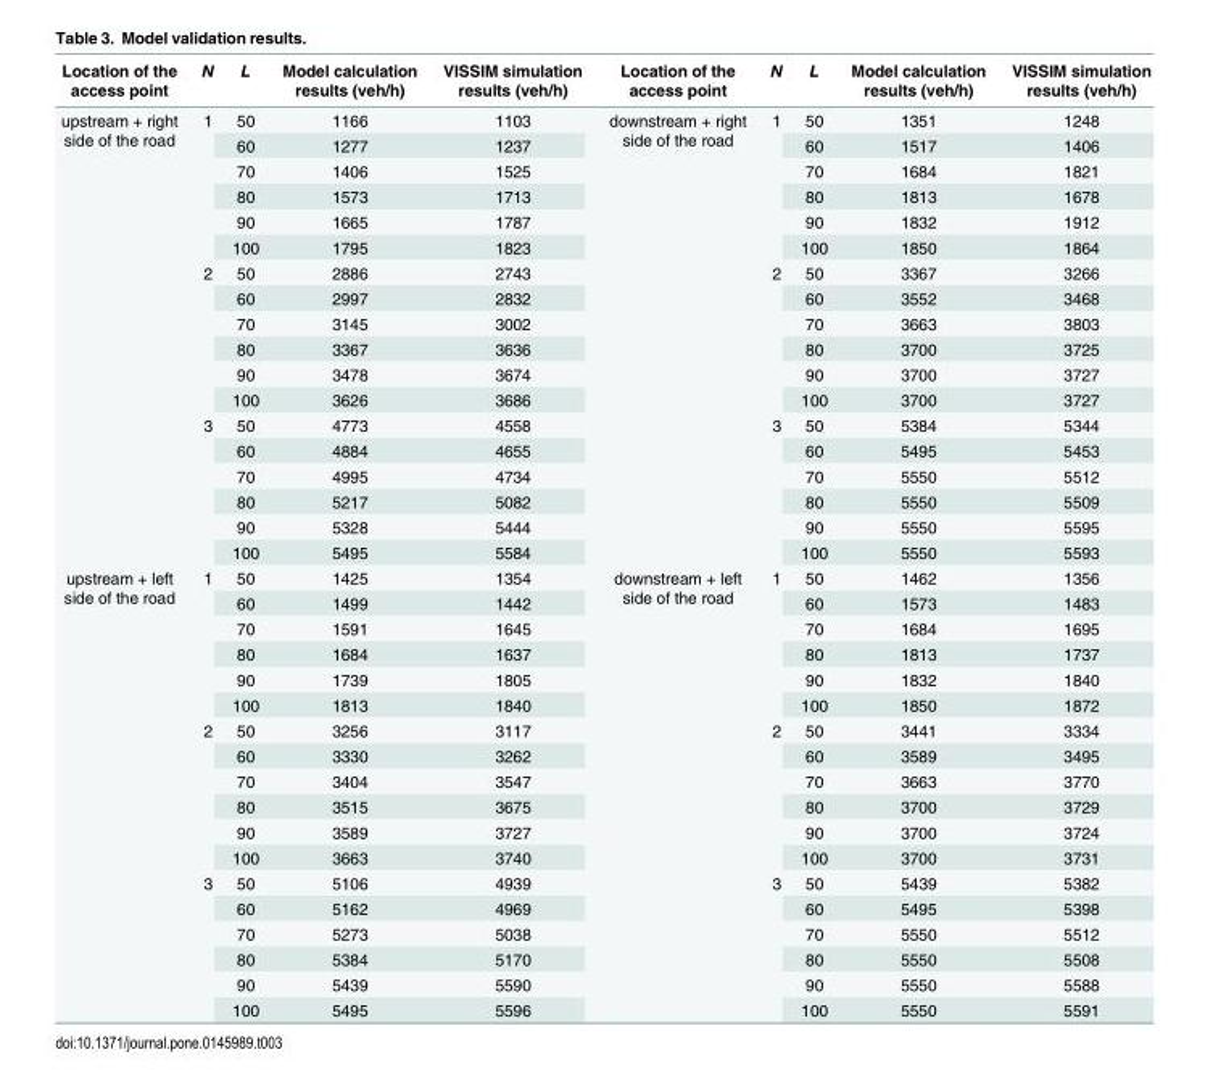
<table><thead><tr><td>Location of the access point</td><td>N</td><td>L</td><td>Model calculation results (veh/h)</td><td>VISSIM simulation results (veh/h)</td><td>Location of the access point</td><td>N</td><td>L</td><td>Model calculation results (veh/h)</td><td>VISSIM simulation results (veh/h)</td></tr></thead><tbody><tr><td rowspan="18">upstream + right side of the road</td><td rowspan="6">1</td><td>50</td><td>1166</td><td>1103</td><td rowspan="18">downstream + right side of the road</td><td rowspan="6">1</td><td>50</td><td>1351</td><td>1248</td></tr><tr><td>60</td><td>1277</td><td>1237</td><td>60</td><td>1517</td><td>1406</td></tr><tr><td>70</td><td>1406</td><td>1525</td><td>70</td><td>1684</td><td>1821</td></tr><tr><td>80</td><td>1573</td><td>1713</td><td>80</td><td>1813</td><td>1678</td></tr><tr><td>90</td><td>1665</td><td>1787</td><td>90</td><td>1832</td><td>1912</td></tr><tr><td>100</td><td>1795</td><td>1823</td><td>100</td><td>1850</td><td>1864</td></tr><tr><td rowspan="6">2</td><td>50</td><td>2886</td><td>2743</td><td rowspan="6">2</td><td>50</td><td>3367</td><td>3266</td></tr><tr><td>60</td><td>2997</td><td>2832</td><td>60</td><td>3552</td><td>3468</td></tr><tr><td>70</td><td>3145</td><td>3002</td><td>70</td><td>3663</td><td>3803</td></tr><tr><td>80</td><td>3367</td><td>3636</td><td>80</td><td>3700</td><td>3725</td></tr><tr><td>90</td><td>3478</td><td>3674</td><td>90</td><td>3700</td><td>3727</td></tr><tr><td>100</td><td>3626</td><td>3686</td><td>100</td><td>3700</td><td>3727</td></tr><tr><td rowspan="6">3</td><td>50</td><td>4773</td><td>4558</td><td rowspan="6">3</td><td>50</td><td>5384</td><td>5344</td></tr><tr><td>60</td><td>4884</td><td>4655</td><td>60</td><td>5495</td><td>5453</td></tr><tr><td>70</td><td>4995</td><td>4734</td><td>70</td><td>5550</td><td>5512</td></tr><tr><td>80</td><td>5217</td><td>5082</td><td>80</td><td>5550</td><td>5509</td></tr><tr><td>90</td><td>5328</td><td>5444</td><td>90</td><td>5550</td><td>5595</td></tr><tr><td>100</td><td>5495</td><td>5584</td><td>100</td><td>5550</td><td>5593</td></tr><tr><td rowspan="18">upstream + left side of the road</td><td rowspan="6">1</td><td>50</td><td>1425</td><td>1354</td><td rowspan="18">downstream + left side of the road</td><td rowspan="6">1</td><td>50</td><td>1462</td><td>1356</td></tr><tr><td>60</td><td>1499</td><td>1442</td><td>60</td><td>1573</td><td>1483</td></tr><tr><td>70</td><td>1591</td><td>1645</td><td>70</td><td>1684</td><td>1695</td></tr><tr><td>80</td><td>1684</td><td>1637</td><td>80</td><td>1813</td><td>1737</td></tr><tr><td>90</td><td>1739</td><td>1805</td><td>90</td><td>1832</td><td>1840</td></tr><tr><td>100</td><td>1813</td><td>1840</td><td>100</td><td>1850</td><td>1872</td></tr><tr><td rowspan="6">2</td><td>50</td><td>3256</td><td>3117</td><td rowspan="6">2</td><td>50</td><td>3441</td><td>3334</td></tr><tr><td>60</td><td>3330</td><td>3262</td><td>60</td><td>3589</td><td>3495</td></tr><tr><td>70</td><td>3404</td><td>3547</td><td>70</td><td>3663</td><td>3770</td></tr><tr><td>80</td><td>3515</td><td>3675</td><td>80</td><td>3700</td><td>3729</td></tr><tr><td>90</td><td>3589</td><td>3727</td><td>90</td><td>3700</td><td>3724</td></tr><tr><td>100</td><td>3663</td><td>3740</td><td>100</td><td>3700</td><td>3731</td></tr><tr><td rowspan="6">3</td><td>50</td><td>5106</td><td>4939</td><td rowspan="6">3</td><td>50</td><td>5439</td><td>5382</td></tr><tr><td>60</td><td>5162</td><td>4969</td><td>60</td><td>5495</td><td>5398</td></tr><tr><td>70</td><td>5273</td><td>5038</td><td>70</td><td>5550</td><td>5512</td></tr><tr><td>80</td><td>5384</td><td>5170</td><td>80</td><td>5550</td><td>5508</td></tr><tr><td>90</td><td>5439</td><td>5590</td><td>90</td><td>5550</td><td>5588</td></tr><tr><td>100</td><td>5495</td><td>5596</td><td>100</td><td>5550</td><td>5591</td></tr></tbody></table>